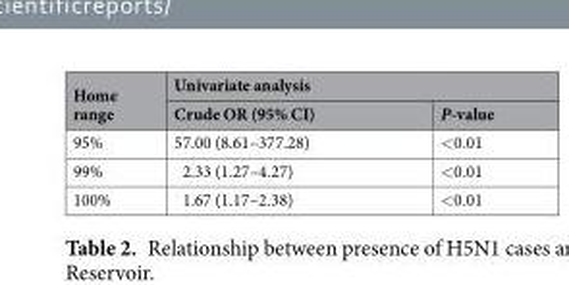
<table><thead><tr><td rowspan="2">Home range</td><td colspan="2">Univariate analysis</td></tr><tr><td>Crude OR (95% CI)</td><td>P-value</td></tr></thead><tbody><tr><td>95%</td><td>57.00 (8.61–377.28)</td><td>&lt;0.01</td></tr><tr><td>99%</td><td>2.33 (1.27–4.27)</td><td>&lt;0.01</td></tr><tr><td>100%</td><td>1.67 (1.17–2.38)</td><td>&lt;0.01</td></tr></tbody></table>